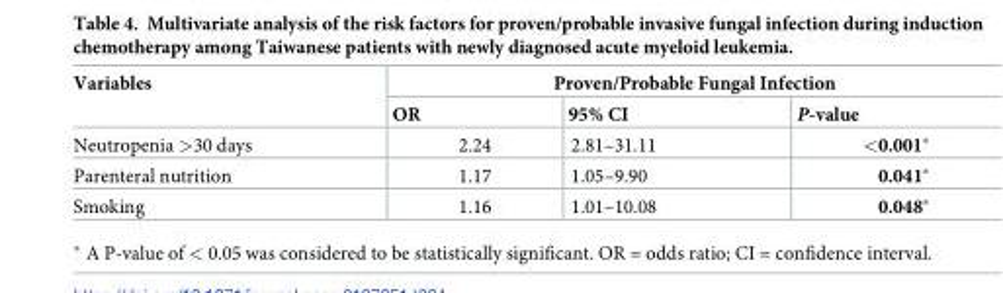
<table><thead><tr><td rowspan="2">Variables</td><td colspan="3">Proven/Probable Fungal Infection</td></tr><tr><td>OR</td><td>95% CI</td><td>P-value</td></tr></thead><tbody><tr><td>Neutropenia &gt;30 days</td><td>2.24</td><td>2.81–31.11</td><td>&lt;0.001*</td></tr><tr><td>Parenteral nutrition</td><td>1.17</td><td>1.05–9.90</td><td>0.041*</td></tr><tr><td>Smoking</td><td>1.16</td><td>1.01–10.08</td><td>0.048*</td></tr></tbody></table>